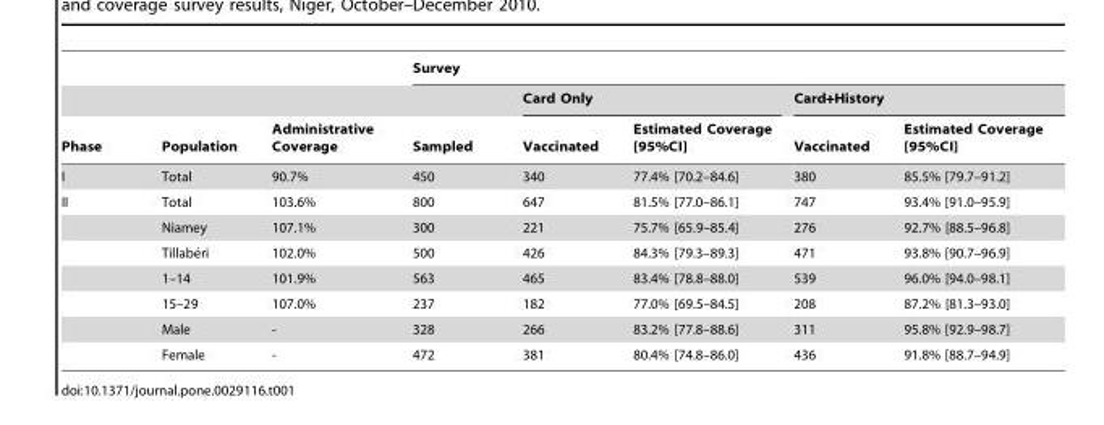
<table><thead><tr><td rowspan="3">Phase</td><td rowspan="3">Population</td><td rowspan="3">Administrative Coverage</td><td colspan="5">Survey</td></tr><tr><td rowspan="2">Sampled</td><td colspan="2">Card Only</td><td colspan="2">Card+History</td></tr><tr><td>Vaccinated</td><td>Estimated Coverage [95%CI]</td><td>Vaccinated</td><td>Estimated Coverage [95%CI]</td></tr></thead><tbody><tr><td>I</td><td>Total</td><td>90.7%</td><td>450</td><td>340</td><td>77.4% [70.2–84.6]</td><td>380</td><td>85.5% [79.7–91.2]</td></tr><tr><td rowspan="7">II</td><td>Total</td><td>103.6%</td><td>800</td><td>647</td><td>81.5% [77.0–86.1]</td><td>747</td><td>93.4% [91.0–95.9]</td></tr><tr><td>Niamey</td><td>107.1%</td><td>300</td><td>221</td><td>75.7% [65.9–85.4]</td><td>276</td><td>92.7% [88.5–96.8]</td></tr><tr><td>Tillabe´ri</td><td>102.0%</td><td>500</td><td>426</td><td>84.3% [79.3–89.3]</td><td>471</td><td>93.8% [90.7–96.9]</td></tr><tr><td>1–14</td><td>101.9%</td><td>563</td><td>465</td><td>83.4% [78.8–88.0]</td><td>539</td><td>96.0% [94.0–98.1]</td></tr><tr><td>15–29</td><td>107.0%</td><td>237</td><td>182</td><td>77.0% [69.5–84.5]</td><td>208</td><td>87.2% [81.3–93.0]</td></tr><tr><td>Male</td><td>-</td><td>328</td><td>266</td><td>83.2% [77.8–88.6]</td><td>311</td><td>95.8% [92.9–98.7]</td></tr><tr><td>Female</td><td>-</td><td>472</td><td>381</td><td>80.4% [74.8–86.0]</td><td>436</td><td>91.8% [88.7–94.9]</td></tr></tbody></table>